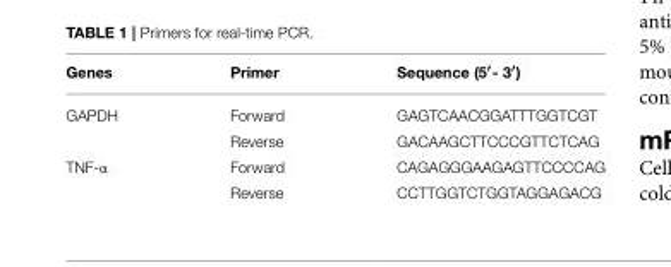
<table><thead><tr><td>Genes</td><td>Primer</td><td>Sequence (5<sup>′</sup>- 3<sup>′</sup>)</td></tr></thead><tbody><tr><td rowspan="2">GAPDH</td><td>Forward</td><td>GAGTCAACGGATTTGGTCGT</td></tr><tr><td>Reverse</td><td>GACAAGCTTCCCGTTCTCAG</td></tr><tr><td rowspan="2">TNF-α</td><td>Forward</td><td>CAGAGGGAAGAGTTCCCCAG</td></tr><tr><td>Reverse</td><td>CCTTGGTCTGGTAGGAGACG</td></tr></tbody></table>